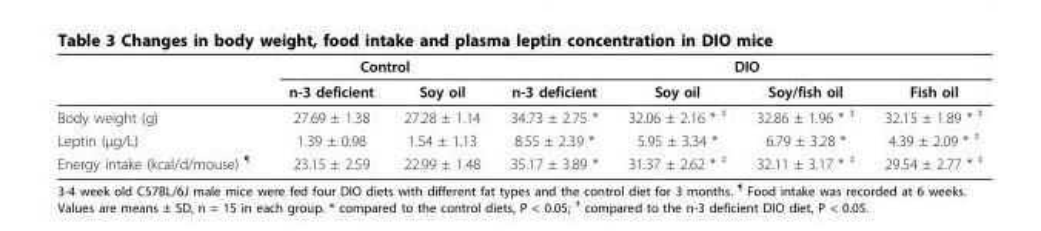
<table><thead><tr><td rowspan="2"></td><td colspan="2">Control</td><td colspan="4">DIO</td></tr><tr><td>n-3 deficient</td><td>Soy oil</td><td>n-3 deficient</td><td>Soy oil</td><td>Soy/fish oil</td><td>Fish oil</td></tr></thead><tbody><tr><td>Body weight (g)</td><td>27.69 ± 1.38</td><td>27.28 ± 1.14</td><td>34.73 ± 2.75 *</td><td>32.06 ± 2.16 * <sup>‡</sup></td><td>32.86 ± 1.96 * <sup>‡</sup></td><td>32.15 ± 1.89 * <sup>‡</sup></td></tr><tr><td>Leptin (μg/L)</td><td>1.39 ± 0.98</td><td>1.54 ± 1.13</td><td>8.55 ± 2.39 *</td><td>5.95 ± 3.34 *</td><td>6.79 ± 3.28 *</td><td>4.39 ± 2.09 * <sup>‡</sup></td></tr><tr><td>Energy intake (kcal/d/mouse) <sup>¶</sup></td><td>23.15 ± 2.59</td><td>22.99 ± 1.48</td><td>35.17 ± 3.89 *</td><td>31.37 ± 2.62 * <sup>‡</sup></td><td>32.11 ± 3.17 * <sup>‡</sup></td><td>29.54 ± 2.77 * <sup>‡</sup></td></tr></tbody></table>